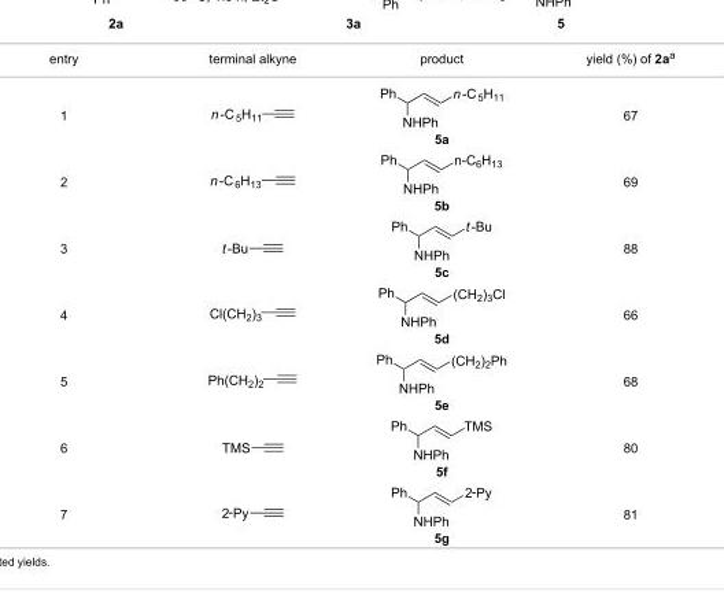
<table><tbody><tr><td>entry</td><td>terminal alkyne</td><td>product</td><td>yield (%) of 2a<sup>a</sup></td></tr><tr><td>1</td><td></td><td>5a</td><td>67</td></tr><tr><td>2</td><td></td><td>5b</td><td>69</td></tr><tr><td>3</td><td></td><td>5c</td><td>88</td></tr><tr><td>4</td><td></td><td>5d</td><td>66</td></tr><tr><td>5</td><td></td><td>5e</td><td>68</td></tr><tr><td>6</td><td></td><td>5f</td><td>80</td></tr><tr><td>7</td><td></td><td>5g</td><td>81</td></tr></tbody></table>